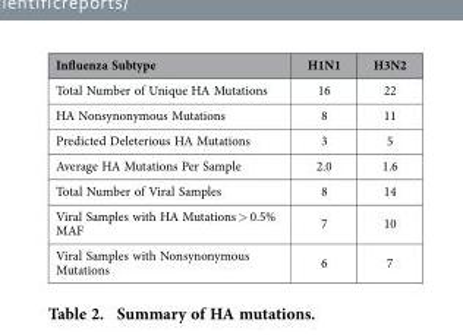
<table><thead><tr><td>Influenza Subtype</td><td>H1N1</td><td>H3N2</td></tr></thead><tbody><tr><td>Total Number of Unique HA Mutations</td><td>16</td><td>22</td></tr><tr><td>HA Nonsynonymous Mutations</td><td>8</td><td>11</td></tr><tr><td>Predicted Deleterious HA Mutations</td><td>3</td><td>5</td></tr><tr><td>Average HA Mutations Per Sample</td><td>2.0</td><td>1.6</td></tr><tr><td>Total Number of Viral Samples</td><td>8</td><td>14</td></tr><tr><td>Viral Samples with HA Mutations &gt; 0.5% MAF</td><td>7</td><td>10</td></tr><tr><td>Viral Samples with Nonsynonymous Mutations</td><td>6</td><td>7</td></tr></tbody></table>